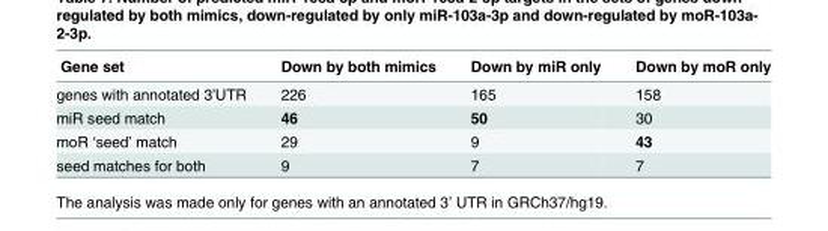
<table><thead><tr><td>Gene set</td><td>Down by both mimics</td><td>Down by miR only</td><td>Down by moR only</td></tr></thead><tbody><tr><td>genes with annotated 3’UTR</td><td>226</td><td>165</td><td>158</td></tr><tr><td>miR seed match</td><td>46</td><td>50</td><td>30</td></tr><tr><td>moR ‘seed’ match</td><td>29</td><td>9</td><td>43</td></tr><tr><td>seed matches for both</td><td>9</td><td>7</td><td>7</td></tr></tbody></table>